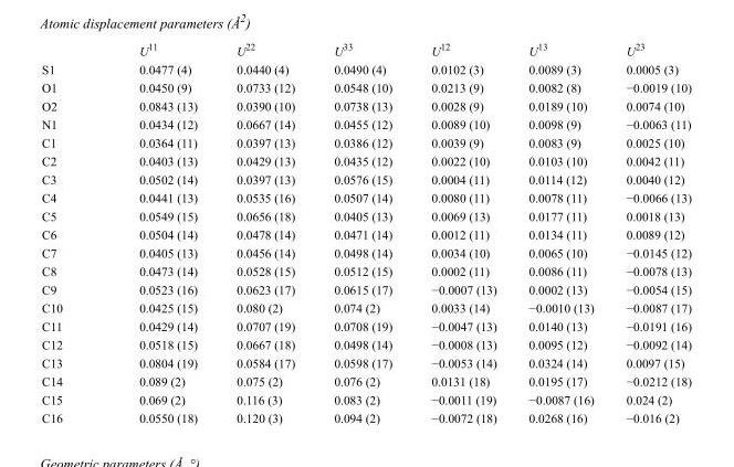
<table><thead><tr><td></td><td>U<sup>11</sup></td><td>U<sup>22</sup></td><td>U<sup>33</sup></td><td>U<sup>12</sup></td><td>U<sup>13</sup></td><td>U<sup>23</sup></td></tr></thead><tbody><tr><td>S1</td><td>0.0477 (4)</td><td>0.0440 (4)</td><td>0.0490 (4)</td><td>0.0102 (3)</td><td>0.0089 (3)</td><td>0.0005 (3)</td></tr><tr><td>O1</td><td>0.0450 (9)</td><td>0.0733 (12)</td><td>0.0548 (10)</td><td>0.0213 (9)</td><td>0.0082 (8)</td><td>−0.0019 (10)</td></tr><tr><td>O2</td><td>0.0843 (13)</td><td>0.0390 (10)</td><td>0.0738 (13)</td><td>0.0028 (9)</td><td>0.0189 (10)</td><td>0.0074 (10)</td></tr><tr><td>N1</td><td>0.0434 (12)</td><td>0.0667 (14)</td><td>0.0455 (12)</td><td>0.0089 (10)</td><td>0.0098 (9)</td><td>−0.0063 (11)</td></tr><tr><td>C1</td><td>0.0364 (11)</td><td>0.0397 (13)</td><td>0.0386 (12)</td><td>0.0039 (9)</td><td>0.0083 (9)</td><td>0.0025 (10)</td></tr><tr><td>C2</td><td>0.0403 (13)</td><td>0.0429 (13)</td><td>0.0435 (12)</td><td>0.0022 (10)</td><td>0.0103 (10)</td><td>0.0042 (11)</td></tr><tr><td>C3</td><td>0.0502 (14)</td><td>0.0397 (13)</td><td>0.0576 (15)</td><td>0.0004 (11)</td><td>0.0114 (12)</td><td>0.0040 (12)</td></tr><tr><td>C4</td><td>0.0441 (13)</td><td>0.0535 (16)</td><td>0.0507 (14)</td><td>0.0080 (11)</td><td>0.0078 (11)</td><td>−0.0066 (13)</td></tr><tr><td>C5</td><td>0.0549 (15)</td><td>0.0656 (18)</td><td>0.0405 (13)</td><td>0.0069 (13)</td><td>0.0177 (11)</td><td>0.0018 (13)</td></tr><tr><td>C6</td><td>0.0504 (14)</td><td>0.0478 (14)</td><td>0.0471 (14)</td><td>0.0012 (11)</td><td>0.0134 (11)</td><td>0.0089 (12)</td></tr><tr><td>C7</td><td>0.0405 (13)</td><td>0.0456 (14)</td><td>0.0498 (14)</td><td>0.0034 (10)</td><td>0.0065 (10)</td><td>−0.0145 (12)</td></tr><tr><td>C8</td><td>0.0473 (14)</td><td>0.0528 (15)</td><td>0.0512 (15)</td><td>0.0002 (11)</td><td>0.0086 (11)</td><td>−0.0078 (13)</td></tr><tr><td>C9</td><td>0.0523 (16)</td><td>0.0623 (17)</td><td>0.0615 (17)</td><td>−0.0007 (13)</td><td>0.0002 (13)</td><td>−0.0054 (15)</td></tr><tr><td>C10</td><td>0.0425 (15)</td><td>0.080 (2)</td><td>0.074 (2)</td><td>0.0033 (14)</td><td>−0.0010 (13)</td><td>−0.0087 (17)</td></tr><tr><td>C11</td><td>0.0429 (14)</td><td>0.0707 (19)</td><td>0.0708 (19)</td><td>−0.0047 (13)</td><td>0.0140 (13)</td><td>−0.0191 (16)</td></tr><tr><td>C12</td><td>0.0518 (15)</td><td>0.0667 (18)</td><td>0.0498 (14)</td><td>−0.0008 (13)</td><td>0.0095 (12)</td><td>−0.0092 (14)</td></tr><tr><td>C13</td><td>0.0804 (19)</td><td>0.0584 (17)</td><td>0.0598 (17)</td><td>−0.0053 (14)</td><td>0.0324 (14)</td><td>0.0097 (15)</td></tr><tr><td>C14</td><td>0.089 (2)</td><td>0.075 (2)</td><td>0.076 (2)</td><td>0.0131 (18)</td><td>0.0195 (17)</td><td>−0.0212 (18)</td></tr><tr><td>C15</td><td>0.069 (2)</td><td>0.116 (3)</td><td>0.083 (2)</td><td>−0.0011 (19)</td><td>−0.0087 (16)</td><td>0.024 (2)</td></tr><tr><td>C16</td><td>0.0550 (18)</td><td>0.120 (3)</td><td>0.094 (2)</td><td>−0.0072 (18)</td><td>0.0268 (16)</td><td>−0.016 (2)</td></tr></tbody></table>